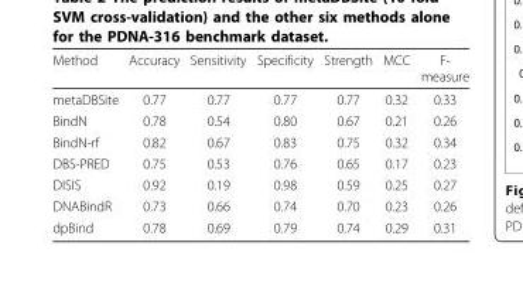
<table><thead><tr><td>Method</td><td>Accuracy</td><td>Sensitivity</td><td>Specificity</td><td>Strength</td><td>MCC</td><td>F- measure</td></tr></thead><tbody><tr><td>metaDBSite</td><td>0.77</td><td>0.77</td><td>0.77</td><td>0.77</td><td>0.32</td><td>0.33</td></tr><tr><td>BindN</td><td>0.78</td><td>0.54</td><td>0.80</td><td>0.67</td><td>0.21</td><td>0.26</td></tr><tr><td>BindN-rf</td><td>0.82</td><td>0.67</td><td>0.83</td><td>0.75</td><td>0.32</td><td>0.34</td></tr><tr><td>DBS-PRED</td><td>0.75</td><td>0.53</td><td>0.76</td><td>0.65</td><td>0.17</td><td>0.23</td></tr><tr><td>DISIS</td><td>0.92</td><td>0.19</td><td>0.98</td><td>0.59</td><td>0.25</td><td>0.27</td></tr><tr><td>DNABindR</td><td>0.73</td><td>0.66</td><td>0.74</td><td>0.70</td><td>0.23</td><td>0.26</td></tr><tr><td>dpBind</td><td>0.78</td><td>0.69</td><td>0.79</td><td>0.74</td><td>0.29</td><td>0.31</td></tr></tbody></table>